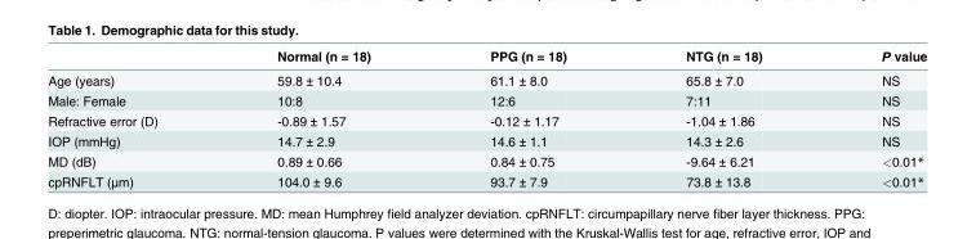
<table><thead><tr><td></td><td>Normal (n = 18)</td><td>PPG (n = 18)</td><td>NTG (n = 18)</td><td>P value</td></tr></thead><tbody><tr><td>Age (years)</td><td>59.8 ± 10.4</td><td>61.1 ± 8.0</td><td>65.8 ± 7.0</td><td>NS</td></tr><tr><td>Male: Female</td><td>10:8</td><td>12:6</td><td>7:11</td><td>NS</td></tr><tr><td>Refractive error (D)</td><td>-0.89 ± 1.57</td><td>-0.12 ± 1.17</td><td>-1.04 ± 1.86</td><td>NS</td></tr><tr><td>IOP (mmHg)</td><td>14.7 ± 2.9</td><td>14.6 ± 1.1</td><td>14.3 ± 2.6</td><td>NS</td></tr><tr><td>MD (dB)</td><td>0.89 ± 0.66</td><td>0.84 ± 0.75</td><td>-9.64 ± 6.21</td><td>&lt;0.01*</td></tr><tr><td>cpRNFLT (μm)</td><td>104.0 ± 9.6</td><td>93.7 ± 7.9</td><td>73.8 ± 13.8</td><td>&lt;0.01*</td></tr></tbody></table>